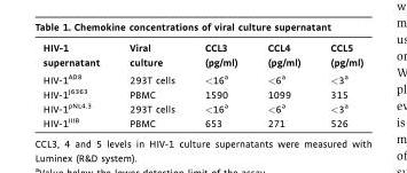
<table><thead><tr><td>HIV-1 supernatant</td><td>Viral culture</td><td>CCL3 (pg/ml)</td><td>CCL4 (pg/ml)</td><td>CCL5 (pg/ml)</td></tr></thead><tbody><tr><td>HIV-1<sup>AD8</sup></td><td>293T cells</td><td>&lt;16<sup>a</sup></td><td>&lt;6<sup>a</sup></td><td>&lt;3<sup>a</sup></td></tr><tr><td>HIV-1<sup>J6363</sup></td><td>PBMC</td><td>1590</td><td>1099</td><td>315</td></tr><tr><td>HIV-1<sup>pNL4.3</sup></td><td>293T cells</td><td>&lt;16<sup>a</sup></td><td>&lt;6<sup>a</sup></td><td>&lt;3<sup>a</sup></td></tr><tr><td>HIV-1<sup>IIIB</sup></td><td>PBMC</td><td>653</td><td>271</td><td>526</td></tr></tbody></table>